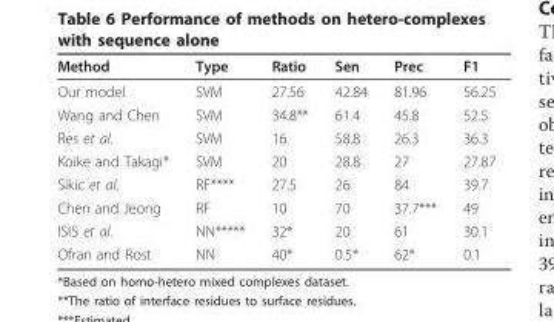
<table><thead><tr><td>Method</td><td>Type</td><td>Ratio</td><td>Sen</td><td>Prec</td><td>F1</td></tr></thead><tbody><tr><td>Our model</td><td>SVM</td><td>27.56</td><td>42.84</td><td>81.96</td><td>56.25</td></tr><tr><td>Wang and Chen</td><td>SVM</td><td>34.8**</td><td>61.4</td><td>45.8</td><td>52.5</td></tr><tr><td>Res et al.</td><td>SVM</td><td>16</td><td>58.8</td><td>26.3</td><td>36.3</td></tr><tr><td>Koike and Takagi*</td><td>SVM</td><td>20</td><td>28.8</td><td>27</td><td>27.87</td></tr><tr><td>Sikic et al.</td><td>RF****</td><td>27.5</td><td>26</td><td>84</td><td>39.7</td></tr><tr><td>Chen and Jeong</td><td>RF</td><td>10</td><td>70</td><td>37.7***</td><td>49</td></tr><tr><td>ISIS et al.</td><td>NN*****</td><td>32*</td><td>20</td><td>61</td><td>30.1</td></tr><tr><td>Ofran and Rost</td><td>NN</td><td>40*</td><td>0.5*</td><td>62*</td><td>0.1</td></tr></tbody></table>